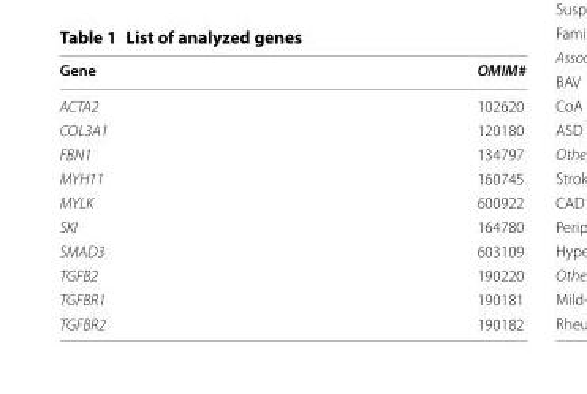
<table><thead><tr><td>Gene</td><td>OMIM#</td></tr></thead><tbody><tr><td>ACTA2</td><td>102620</td></tr><tr><td>COL3A1</td><td>120180</td></tr><tr><td>FBN1</td><td>134797</td></tr><tr><td>MYH11</td><td>160745</td></tr><tr><td>MYLK</td><td>600922</td></tr><tr><td>SKI</td><td>164780</td></tr><tr><td>SMAD3</td><td>603109</td></tr><tr><td>TGFB2</td><td>190220</td></tr><tr><td>TGFBR1</td><td>190181</td></tr><tr><td>TGFBR2</td><td>190182</td></tr></tbody></table>